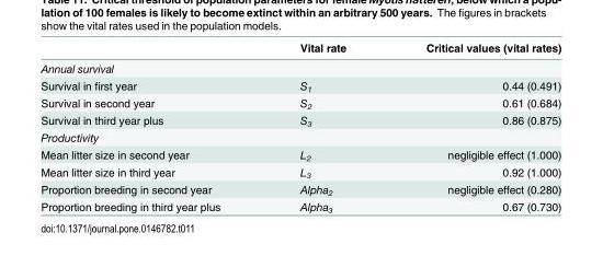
<table><thead><tr><td></td><td>Vital rate</td><td>Critical values (vital rates)</td></tr></thead><tbody><tr><td colspan="3">Annual survival</td></tr><tr><td>Survival in first year</td><td>S<sub>1</sub></td><td>0.44 (0.491)</td></tr><tr><td>Survival in second year</td><td>S<sub>2</sub></td><td>0.61 (0.684)</td></tr><tr><td>Survival in third year plus</td><td>S<sub>3</sub></td><td>0.86 (0.875)</td></tr><tr><td colspan="3">Productivity</td></tr><tr><td>Mean litter size in second year</td><td>L<sub>2</sub></td><td>negligible effect (1.000)</td></tr><tr><td>Mean litter size in third year</td><td>L<sub>3</sub></td><td>0.92 (1.000)</td></tr><tr><td>Proportion breeding in second year</td><td>Alpha<sub>2</sub></td><td>negligible effect (0.280)</td></tr><tr><td>Proportion breeding in third year plus</td><td>Alpha<sub>3</sub></td><td>0.67 (0.730)</td></tr></tbody></table>